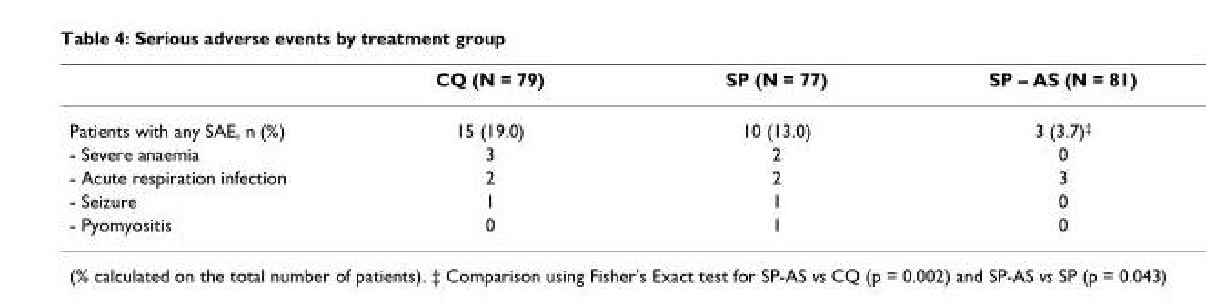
<table><thead><tr><td></td><td>CQ (N = 79)</td><td>SP (N = 77)</td><td>SP – AS (N = 81)</td></tr></thead><tbody><tr><td>Patients with any SAE, n (%)</td><td>15 (19.0)</td><td>10 (13.0)</td><td>3 (3.7)<sup>‡</sup></td></tr><tr><td>- Severe anaemia</td><td>3</td><td>2</td><td>0</td></tr><tr><td>- Acute respiration infection</td><td>2</td><td>2</td><td>3</td></tr><tr><td>- Seizure</td><td>1</td><td>1</td><td>0</td></tr><tr><td>- Pyomyositis</td><td>0</td><td>1</td><td>0</td></tr></tbody></table>